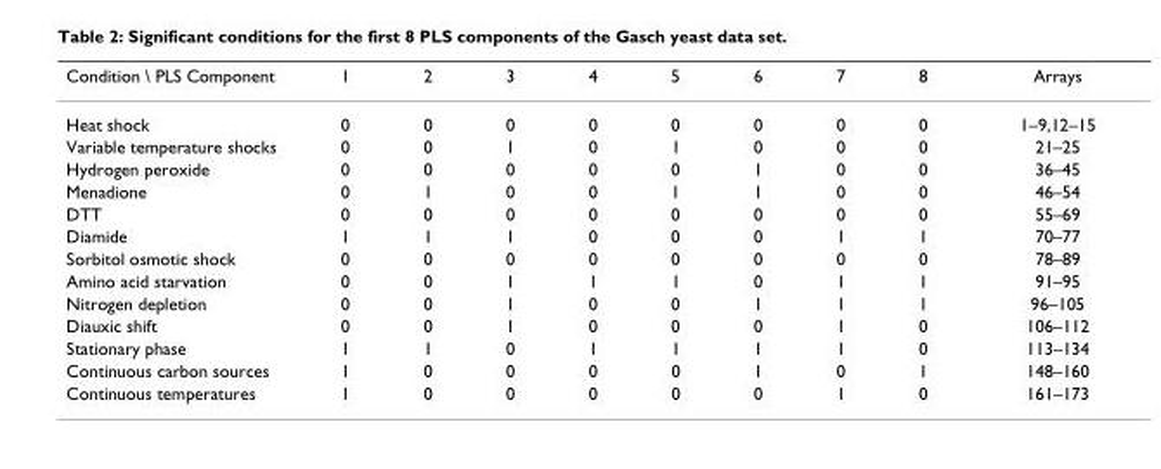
<table><thead><tr><td>Condition \ PLS Component</td><td>1</td><td>2</td><td>3</td><td>4</td><td>5</td><td>6</td><td>7</td><td>8</td><td>Arrays</td></tr></thead><tbody><tr><td>Heat shock</td><td>0</td><td>0</td><td>0</td><td>0</td><td>0</td><td>0</td><td>0</td><td>0</td><td>1–9,12–15</td></tr><tr><td>Variable temperature shocks</td><td>0</td><td>0</td><td>1</td><td>0</td><td>1</td><td>0</td><td>0</td><td>0</td><td>21–25</td></tr><tr><td>Hydrogen peroxide</td><td>0</td><td>0</td><td>0</td><td>0</td><td>0</td><td>1</td><td>0</td><td>0</td><td>36–45</td></tr><tr><td>Menadione</td><td>0</td><td>1</td><td>0</td><td>0</td><td>1</td><td>1</td><td>0</td><td>0</td><td>46–54</td></tr><tr><td>DTT</td><td>0</td><td>0</td><td>0</td><td>0</td><td>0</td><td>0</td><td>0</td><td>0</td><td>55–69</td></tr><tr><td>Diamide</td><td>1</td><td>1</td><td>1</td><td>0</td><td>0</td><td>0</td><td>1</td><td>1</td><td>70–77</td></tr><tr><td>Sorbitol osmotic shock</td><td>0</td><td>0</td><td>0</td><td>0</td><td>0</td><td>0</td><td>0</td><td>0</td><td>78–89</td></tr><tr><td>Amino acid starvation</td><td>0</td><td>0</td><td>1</td><td>1</td><td>1</td><td>0</td><td>1</td><td>1</td><td>91–95</td></tr><tr><td>Nitrogen depletion</td><td>0</td><td>0</td><td>1</td><td>0</td><td>0</td><td>1</td><td>1</td><td>1</td><td>96–105</td></tr><tr><td>Diauxic shift</td><td>0</td><td>0</td><td>1</td><td>0</td><td>0</td><td>0</td><td>1</td><td>0</td><td>106–112</td></tr><tr><td>Stationary phase</td><td>1</td><td>1</td><td>0</td><td>1</td><td>1</td><td>1</td><td>1</td><td>0</td><td>113–134</td></tr><tr><td>Continuous carbon sources</td><td>1</td><td>0</td><td>0</td><td>0</td><td>0</td><td>1</td><td>0</td><td>1</td><td>148–160</td></tr><tr><td>Continuous temperatures</td><td>1</td><td>0</td><td>0</td><td>0</td><td>0</td><td>0</td><td>1</td><td>0</td><td>161–173</td></tr></tbody></table>